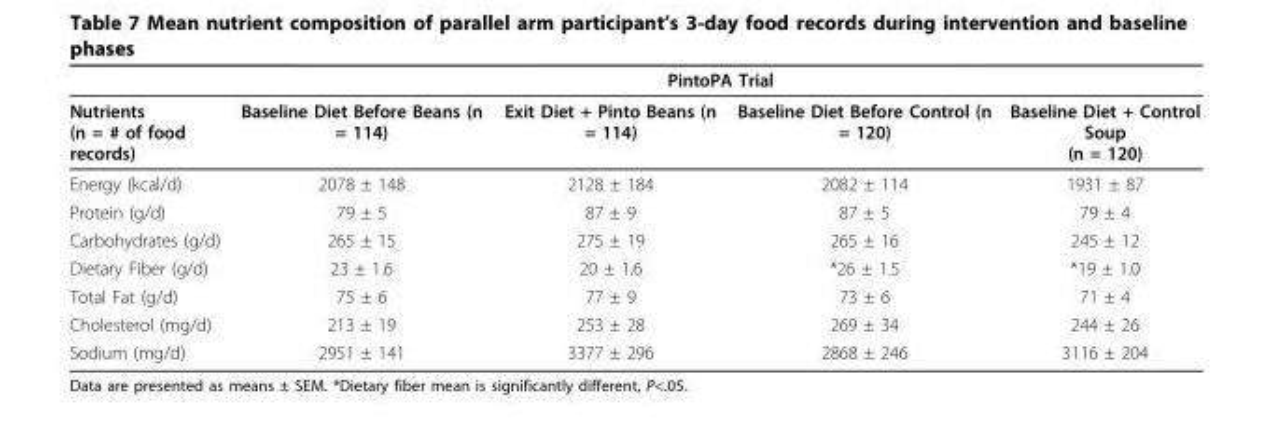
<table><thead><tr><td rowspan="2">Nutrients (n = # of food records)</td><td colspan="4">PintoPA Trial</td></tr><tr><td>Baseline Diet Before Beans (n = 114)</td><td>Exit Diet + Pinto Beans (n = 114)</td><td>Baseline Diet Before Control (n = 120)</td><td>Baseline Diet + Control Soup (n = 120)</td></tr></thead><tbody><tr><td>Energy (kcal/d)</td><td>2078 ± 148</td><td>2128 ± 184</td><td>2082 ± 114</td><td>1931 ± 87</td></tr><tr><td>Protein (g/d)</td><td>79 ± 5</td><td>87 ± 9</td><td>87 ± 5</td><td>79 ± 4</td></tr><tr><td>Carbohydrates (g/d)</td><td>265 ± 15</td><td>275 ± 19</td><td>265 ± 16</td><td>245 ± 12</td></tr><tr><td>Dietary Fiber (g/d)</td><td>23 ± 1.6</td><td>20 ± 1.6</td><td>*26 ± 1.5</td><td>*19 ± 1.0</td></tr><tr><td>Total Fat (g/d)</td><td>75 ± 6</td><td>77 ± 9</td><td>73 ± 6</td><td>71 ± 4</td></tr><tr><td>Cholesterol (mg/d)</td><td>213 ± 19</td><td>253 ± 28</td><td>269 ± 34</td><td>244 ± 26</td></tr><tr><td>Sodium (mg/d)</td><td>2951 ± 141</td><td>3377 ± 296</td><td>2868 ± 246</td><td>3116 ± 204</td></tr></tbody></table>